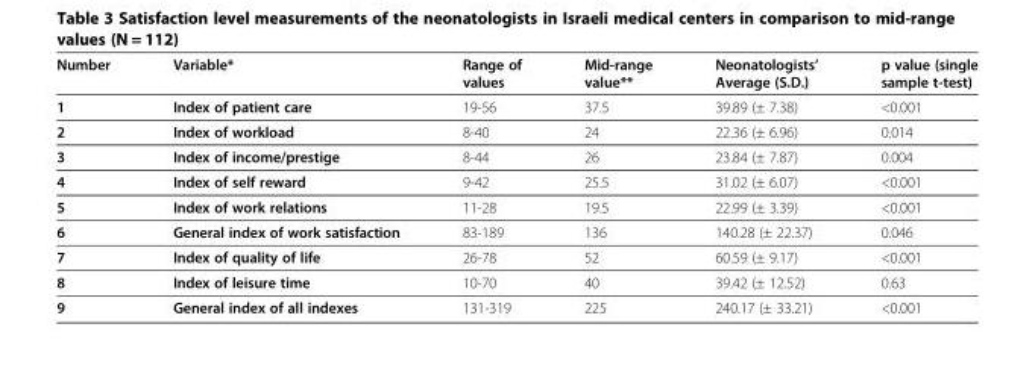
<table><thead><tr><td>Number</td><td>Variable*</td><td>Range of values</td><td>Mid-range value**</td><td>Neonatologists’ Average (S.D.)</td><td>p value (single sample t-test)</td></tr></thead><tbody><tr><td>1</td><td>Index of patient care</td><td>19-56</td><td>37.5</td><td>39.89 (± 7.38)</td><td>&lt;0.001</td></tr><tr><td>2</td><td>Index of workload</td><td>8-40</td><td>24</td><td>22.36 (± 6.96)</td><td>0.014</td></tr><tr><td>3</td><td>Index of income/prestige</td><td>8-44</td><td>26</td><td>23.84 (± 7.87)</td><td>0.004</td></tr><tr><td>4</td><td>Index of self reward</td><td>9-42</td><td>25.5</td><td>31.02 (± 6.07)</td><td>&lt;0.001</td></tr><tr><td>5</td><td>Index of work relations</td><td>11-28</td><td>19.5</td><td>22.99 (± 3.39)</td><td>&lt;0.001</td></tr><tr><td>6</td><td>General index of work satisfaction</td><td>83-189</td><td>136</td><td>140.28 (± 22.37)</td><td>0.046</td></tr><tr><td>7</td><td>Index of quality of life</td><td>26-78</td><td>52</td><td>60.59 (± 9.17)</td><td>&lt;0.001</td></tr><tr><td>8</td><td>Index of leisure time</td><td>10-70</td><td>40</td><td>39.42 (± 12.52)</td><td>0.63</td></tr><tr><td>9</td><td>General index of all indexes</td><td>131-319</td><td>225</td><td>240.17 (± 33.21)</td><td>&lt;0.001</td></tr></tbody></table>